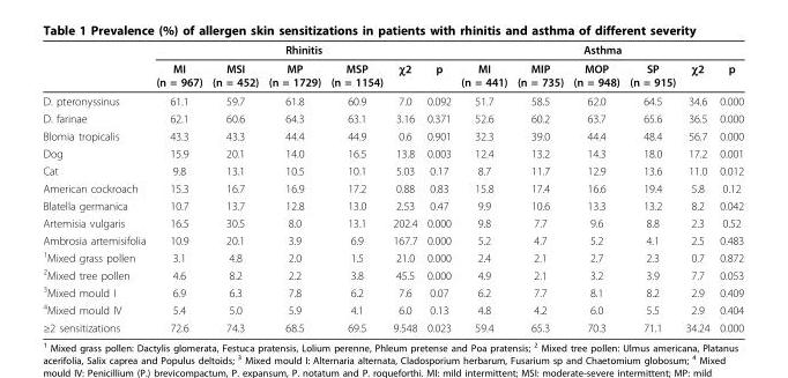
<table><thead><tr><td rowspan="2"></td><td colspan="6">Rhinitis</td><td colspan="6">Asthma</td></tr><tr><td>MI (n = 967)</td><td>MSI (n = 452)</td><td>MP (n = 1729)</td><td>MSP (n = 1154)</td><td>χ2</td><td>p</td><td>MI (n = 441)</td><td>MIP (n = 735)</td><td>MOP (n = 948)</td><td>SP (n = 915)</td><td>χ2</td><td>p</td></tr></thead><tbody><tr><td>D. pteronyssinus</td><td>61.1</td><td>59.7</td><td>61.8</td><td>60.9</td><td>7.0</td><td>0.092</td><td>51.7</td><td>58.5</td><td>62.0</td><td>64.5</td><td>34.6</td><td>0.000</td></tr><tr><td>D. farinae</td><td>62.1</td><td>60.6</td><td>64.3</td><td>63.1</td><td>3.16</td><td>0.371</td><td>52.6</td><td>60.2</td><td>63.7</td><td>65.6</td><td>36.5</td><td>0.000</td></tr><tr><td>Blomia tropicalis</td><td>43.3</td><td>43.3</td><td>44.4</td><td>44.9</td><td>0.6</td><td>0.901</td><td>32.3</td><td>39.0</td><td>44.4</td><td>48.4</td><td>56.7</td><td>0.000</td></tr><tr><td>Dog</td><td>15.9</td><td>20.1</td><td>14.0</td><td>16.5</td><td>13.8</td><td>0.003</td><td>12.4</td><td>13.2</td><td>14.3</td><td>18.0</td><td>17.2</td><td>0.001</td></tr><tr><td>Cat</td><td>9.8</td><td>13.1</td><td>10.5</td><td>10.1</td><td>5.03</td><td>0.17</td><td>8.7</td><td>11.7</td><td>12.9</td><td>13.6</td><td>11.0</td><td>0.012</td></tr><tr><td>American cockroach</td><td>15.3</td><td>16.7</td><td>16.9</td><td>17.2</td><td>0.88</td><td>0.83</td><td>15.8</td><td>17.4</td><td>16.6</td><td>19.4</td><td>5.8</td><td>0.12</td></tr><tr><td>Blatella germanica</td><td>10.7</td><td>13.7</td><td>12.8</td><td>13.0</td><td>2.53</td><td>0.47</td><td>9.9</td><td>10.6</td><td>13.3</td><td>13.2</td><td>8.2</td><td>0.042</td></tr><tr><td>Artemisia vulgaris</td><td>16.5</td><td>30.5</td><td>8.0</td><td>13.1</td><td>202.4</td><td>0.000</td><td>9.8</td><td>7.7</td><td>9.6</td><td>8.8</td><td>2.3</td><td>0.52</td></tr><tr><td>Ambrosia artemisifolia</td><td>10.9</td><td>20.1</td><td>3.9</td><td>6.9</td><td>167.7</td><td>0.000</td><td>5.2</td><td>4.7</td><td>5.2</td><td>4.1</td><td>2.5</td><td>0.483</td></tr><tr><td><sup>1</sup>Mixed grass pollen</td><td>3.1</td><td>4.8</td><td>2.0</td><td>1.5</td><td>21.0</td><td>0.000</td><td>2.4</td><td>2.1</td><td>2.7</td><td>2.3</td><td>0.7</td><td>0.872</td></tr><tr><td><sup>2</sup>Mixed tree pollen</td><td>4.6</td><td>8.2</td><td>2.2</td><td>3.8</td><td>45.5</td><td>0.000</td><td>4.9</td><td>2.1</td><td>3.2</td><td>3.9</td><td>7.7</td><td>0.053</td></tr><tr><td><sup>3</sup>Mixed mould I</td><td>6.9</td><td>6.3</td><td>7.8</td><td>6.2</td><td>7.6</td><td>0.07</td><td>6.2</td><td>7.7</td><td>8.1</td><td>8.2</td><td>2.9</td><td>0.409</td></tr><tr><td><sup>4</sup>Mixed mould IV</td><td>5.4</td><td>5.0</td><td>5.9</td><td>4.1</td><td>6.0</td><td>0.13</td><td>4.8</td><td>4.2</td><td>6.0</td><td>5.5</td><td>2.9</td><td>0.404</td></tr><tr><td>≥2 sensitizations</td><td>72.6</td><td>74.3</td><td>68.5</td><td>69.5</td><td>9.548</td><td>0.023</td><td>59.4</td><td>65.3</td><td>70.3</td><td>71.1</td><td>34.24</td><td>0.000</td></tr></tbody></table>